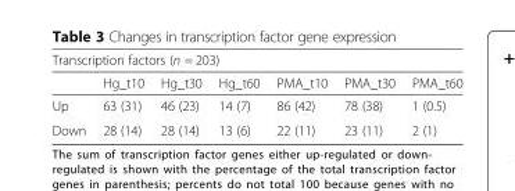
<table><thead><tr><td colspan="7">Transcription factors (n = 203)</td></tr><tr><td></td><td>Hg_t10</td><td>Hg_t30</td><td>Hg_t60</td><td>PMA_t10</td><td>PMA_t30</td><td>PMA_t60</td></tr></thead><tbody><tr><td>Up</td><td>63 (31)</td><td>46 (23)</td><td>14 (7)</td><td>86 (42)</td><td>78 (38)</td><td>1 (0.5)</td></tr><tr><td>Down</td><td>28 (14)</td><td>28 (14)</td><td>13 (6)</td><td>22 (11)</td><td>23 (11)</td><td>2 (1)</td></tr></tbody></table>